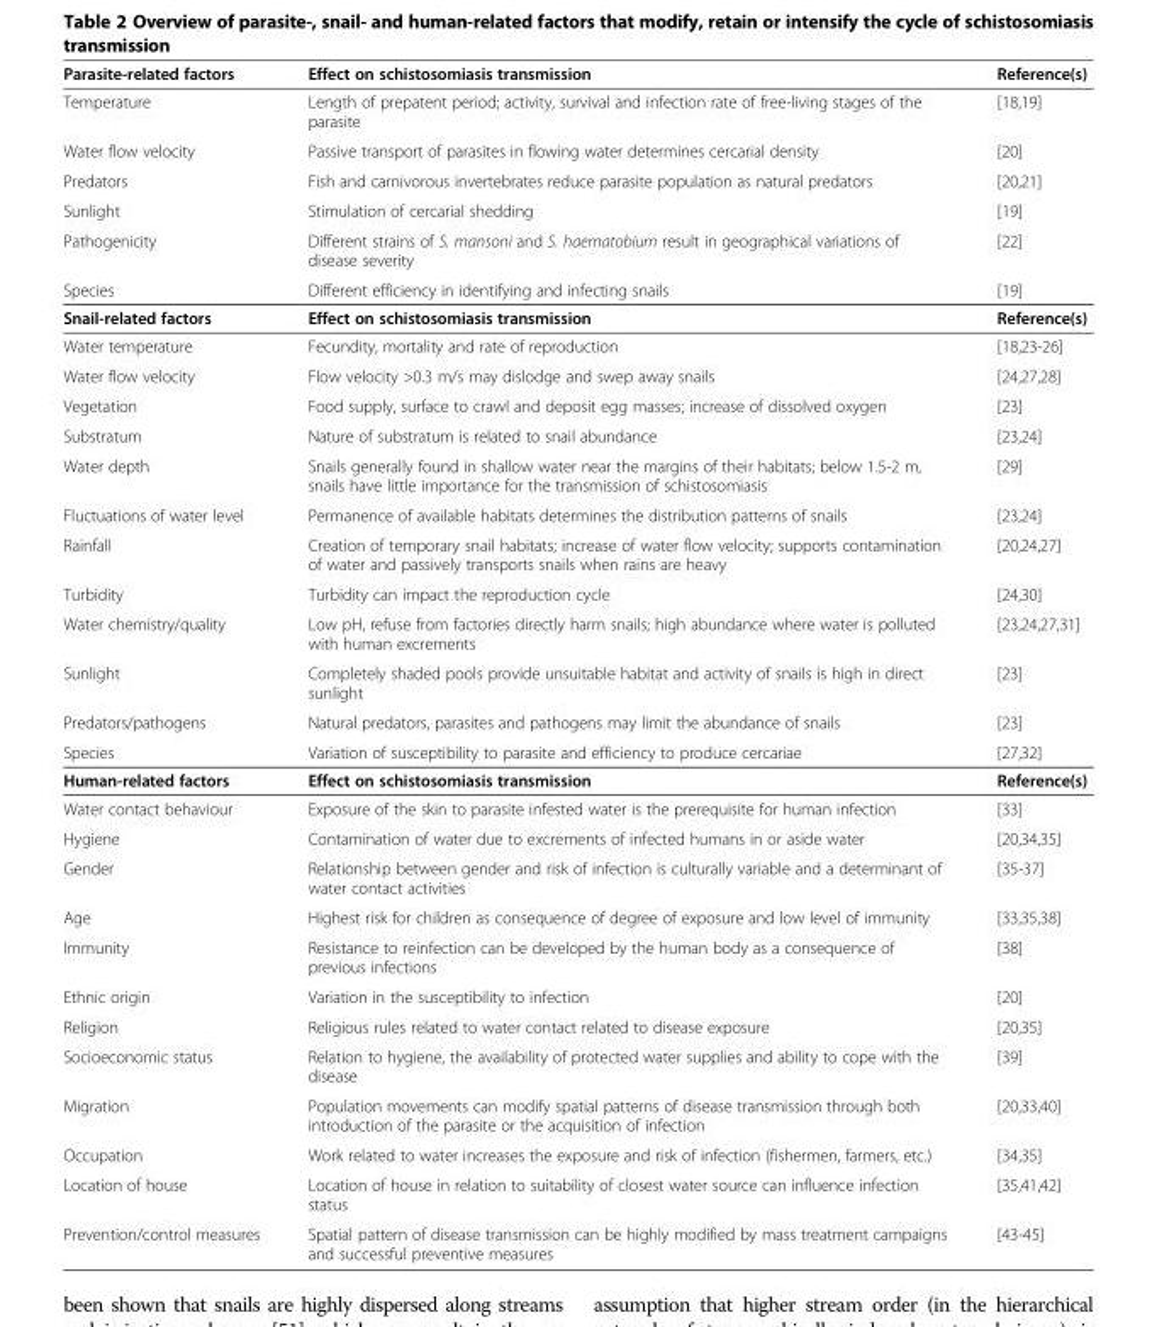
<table><thead><tr><td>Parasite-related factors</td><td>Effect on schistosomiasis transmission</td><td>Reference(s)</td></tr></thead><tbody><tr><td>Temperature</td><td>Length of prepatent period; activity, survival and infection rate of free-living stages of the parasite</td><td>[18,19]</td></tr><tr><td>Water flow velocity</td><td>Passive transport of parasites in flowing water determines cercarial density</td><td>[20]</td></tr><tr><td>Predators</td><td>Fish and carnivorous invertebrates reduce parasite population as natural predators</td><td>[20,21]</td></tr><tr><td>Sunlight</td><td>Stimulation of cercarial shedding</td><td>[19]</td></tr><tr><td>Pathogenicity</td><td>Different strains of S. mansoni and S. haematobium result in geographical variations of disease severity</td><td>[22]</td></tr><tr><td>Species</td><td>Different efficiency in identifying and infecting snails</td><td>[19]</td></tr><tr><td>Snail-related factors</td><td>Effect on schistosomiasis transmission</td><td>Reference(s)</td></tr><tr><td>Water temperature</td><td>Fecundity, mortality and rate of reproduction</td><td>[18,23-26]</td></tr><tr><td>Water flow velocity</td><td>Flow velocity &gt;0.3 m/s may dislodge and swep away snails</td><td>[24,27,28]</td></tr><tr><td>Vegetation</td><td>Food supply, surface to crawl and deposit egg masses; increase of dissolved oxygen</td><td>[23]</td></tr><tr><td>Substratum</td><td>Nature of substratum is related to snail abundance</td><td>[23,24]</td></tr><tr><td>Water depth</td><td>Snails generally found in shallow water near the margins of their habitats; below 1.5-2 m, snails have little importance for the transmission of schistosomiasis</td><td>[29]</td></tr><tr><td>Fluctuations of water level</td><td>Permanence of available habitats determines the distribution patterns of snails</td><td>[23,24]</td></tr><tr><td>Rainfall</td><td>Creation of temporary snail habitats; increase of water flow velocity; supports contamination of water and passively transports snails when rains are heavy</td><td>[20,24,27]</td></tr><tr><td>Turbidity</td><td>Turbidity can impact the reproduction cycle</td><td>[24,30]</td></tr><tr><td>Water chemistry/quality</td><td>Low pH, refuse from factories directly harm snails; high abundance where water is polluted with human excrements</td><td>[23,24,27,31]</td></tr><tr><td>Sunlight</td><td>Completely shaded pools provide unsuitable habitat and activity of snails is high in direct sunlight</td><td>[23]</td></tr><tr><td>Predators/pathogens</td><td>Natural predators, parasites and pathogens may limit the abundance of snails</td><td>[23]</td></tr><tr><td>Species</td><td>Variation of susceptibility to parasite and efficiency to produce cercariae</td><td>[27,32]</td></tr><tr><td>Human-related factors</td><td>Effect on schistosomiasis transmission</td><td>Reference(s)</td></tr><tr><td>Water contact behaviour</td><td>Exposure of the skin to parasite infested water is the prerequisite for human infection</td><td>[33]</td></tr><tr><td>Hygiene</td><td>Contamination of water due to excrements of infected humans in or aside water</td><td>[20,34,35]</td></tr><tr><td>Gender</td><td>Relationship between gender and risk of infection is culturally variable and a determinant of water contact activities</td><td>[35-37]</td></tr><tr><td>Age</td><td>Highest risk for children as consequence of degree of exposure and low level of immunity</td><td>[33,35,38]</td></tr><tr><td>Immunity</td><td>Resistance to reinfection can be developed by the human body as a consequence of previous infections</td><td>[38]</td></tr><tr><td>Ethnic origin</td><td>Variation in the susceptibility to infection</td><td>[20]</td></tr><tr><td>Religion</td><td>Religious rules related to water contact related to disease exposure</td><td>[20,35]</td></tr><tr><td>Socioeconomic status</td><td>Relation to hygiene, the availability of protected water supplies and ability to cope with the disease</td><td>[39]</td></tr><tr><td>Migration</td><td>Population movements can modify spatial patterns of disease transmission through both introduction of the parasite or the acquisition of infection</td><td>[20,33,40]</td></tr><tr><td>Occupation</td><td>Work related to water increases the exposure and risk of infection (fishermen, farmers, etc.)</td><td>[34,35]</td></tr><tr><td>Location of house</td><td>Location of house in relation to suitability of closest water source can influence infection status</td><td>[35,41,42]</td></tr><tr><td>Prevention/control measures</td><td>Spatial pattern of disease transmission can be highly modified by mass treatment campaigns and successful preventive measures</td><td>[43-45]</td></tr></tbody></table>